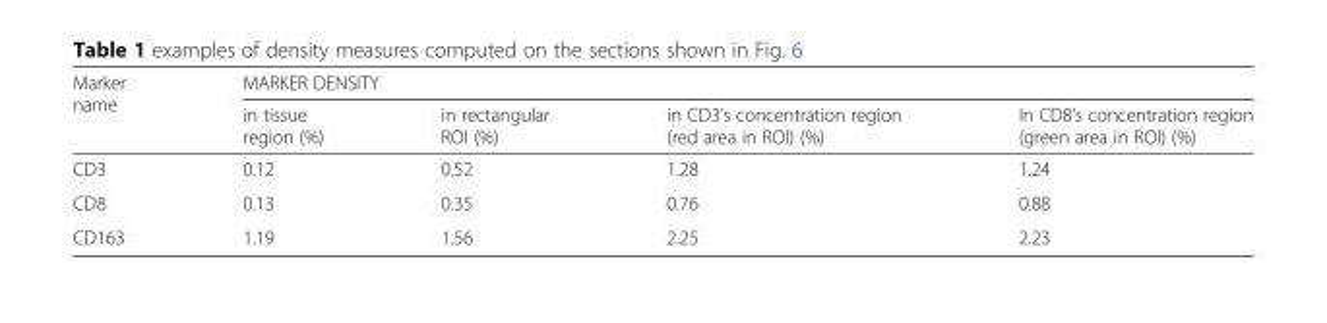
<table><thead><tr><td rowspan="2">Marker name</td><td colspan="4">MARKER DENSITY</td></tr><tr><td>in tissue region (%)</td><td>in rectangular ROI (%)</td><td>in CD3’s concentration region (red area in ROI) (%)</td><td>In CD8’s concentration region (green area in ROI) (%)</td></tr></thead><tbody><tr><td>CD3</td><td>0.12</td><td>0.52</td><td>1.28</td><td>1.24</td></tr><tr><td>CD8</td><td>0.13</td><td>0.35</td><td>0.76</td><td>0.88</td></tr><tr><td>CD163</td><td>1.19</td><td>1.56</td><td>2.25</td><td>2.23</td></tr></tbody></table>